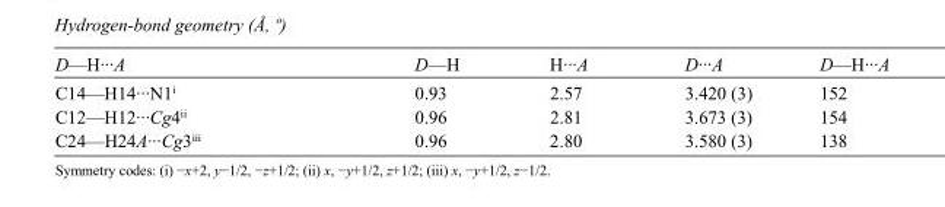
<table><tbody><tr><td>D—H···A</td><td>D—H</td><td>H···A</td><td>D···A</td><td>D—H···A</td></tr><tr><td>C14—H14···N1<sup>i</sup></td><td>0.93</td><td>2.57</td><td>3.420 (3)</td><td>152</td></tr><tr><td>C12—H12···Cg4<sup>ii</sup></td><td>0.96</td><td>2.81</td><td>3.673 (3)</td><td>154</td></tr><tr><td>C24—H24A···Cg3<sup>iii</sup></td><td>0.96</td><td>2.80</td><td>3.580 (3)</td><td>138</td></tr></tbody></table>